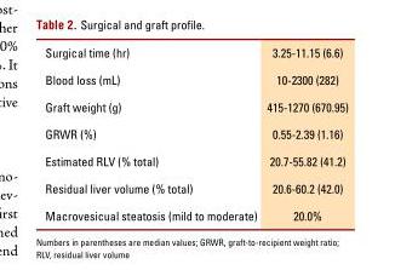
<table><tbody><tr><td>Surgical time (hr)</td><td>3.25-11.15 (6.6)</td></tr><tr><td>Blood loss (mL)</td><td>10-2300 (282)</td></tr><tr><td>Graft weight (g)</td><td>415-1270 (670.95)</td></tr><tr><td>GRWR (%)</td><td>0.55-2.39 (1.16)</td></tr><tr><td>Estimated RLV (% total)</td><td>20.7-55.82 (41.2)</td></tr><tr><td>Residual liver volume (% total)</td><td>20.6-60.2 (42.0)</td></tr><tr><td>Macrovesicual steatosis (mild to moderate)</td><td>20.0%</td></tr></tbody></table>